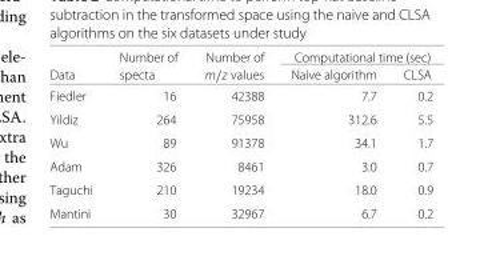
<table><thead><tr><td rowspan="2">Data</td><td rowspan="2">Number of specta</td><td rowspan="2">Number of m/z values</td><td colspan="2">Computational time (sec)</td></tr><tr><td>Naive algorithm</td><td>CLSA</td></tr></thead><tbody><tr><td>Fiedler</td><td>16</td><td>42388</td><td>7.7</td><td>0.2</td></tr><tr><td>Yildiz</td><td>264</td><td>75958</td><td>312.6</td><td>5.5</td></tr><tr><td>Wu</td><td>89</td><td>91378</td><td>34.1</td><td>1.7</td></tr><tr><td>Adam</td><td>326</td><td>8461</td><td>3.0</td><td>0.7</td></tr><tr><td>Taguchi</td><td>210</td><td>19234</td><td>18.0</td><td>0.9</td></tr><tr><td>Mantini</td><td>30</td><td>32967</td><td>6.7</td><td>0.2</td></tr></tbody></table>